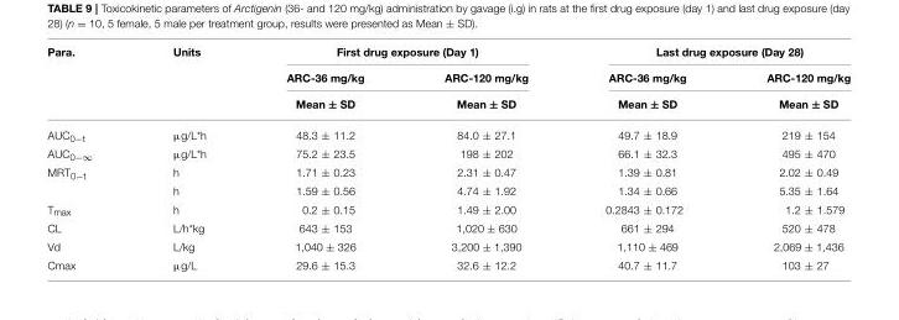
<table><thead><tr><td rowspan="3">Para.</td><td rowspan="3">Units</td><td colspan="2">First drug exposure (Day 1)</td><td colspan="2">Last drug exposure (Day 28)</td></tr><tr><td rowspan="2">ARC-36 mg/kg Mean ± SD</td><td rowspan="2">ARC-120 mg/kg Mean ± SD</td><td rowspan="2">ARC-36 mg/kg Mean ± SD</td><td rowspan="2">ARC-120 mg/kg Mean ± SD</td></tr><tr></tr></thead><tbody><tr><td>AUC<sub>0−t</sub></td><td>µg/L*h</td><td>48.3 ± 11.2</td><td>84.0 ± 27.1</td><td>49.7 ± 18.9</td><td>219 ± 154</td></tr><tr><td>AUC<sub>0−∞</sub></td><td>µg/L*h</td><td>75.2 ± 23.5</td><td>198 ± 202</td><td>66.1 ± 32.3</td><td>495 ± 470</td></tr><tr><td rowspan="2">MRT<sub>0−t</sub></td><td>h</td><td>1.71 ± 0.23</td><td>2.31 ± 0.47</td><td>1.39 ± 0.81</td><td>2.02 ± 0.49</td></tr><tr><td>h</td><td>1.59 ± 0.56</td><td>4.74 ± 1.92</td><td>1.34 ± 0.66</td><td>5.35 ± 1.64</td></tr><tr><td>T<sub>max</sub></td><td>h</td><td>0.2 ± 0.15</td><td>1.49 ± 2.00</td><td>0.2843 ± 0.172</td><td>1.2 ± 1.579</td></tr><tr><td>CL</td><td>L/h*kg</td><td>643 ± 153</td><td>1,020 ± 630</td><td>661 ± 294</td><td>520 ± 478</td></tr><tr><td>Vd</td><td>L/kg</td><td>1,040 ± 326</td><td>3,200 ± 1,390</td><td>1,110 ± 469</td><td>2,069 ± 1,436</td></tr><tr><td>Cmax</td><td>µg/L</td><td>29.6 ± 15.3</td><td>32.6 ± 12.2</td><td>40.7 ± 11.7</td><td>103 ± 27</td></tr></tbody></table>